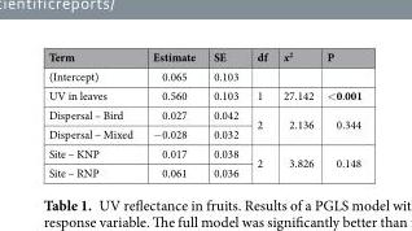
<table><thead><tr><td>Term</td><td>Estimate</td><td>SE</td><td>df</td><td>x<sup>2</sup></td><td>P</td></tr></thead><tbody><tr><td>(Intercept)</td><td>0.065</td><td>0.103</td><td></td><td></td><td></td></tr><tr><td>UV in leaves</td><td>0.560</td><td>0.103</td><td>1</td><td>27.142</td><td>&lt;0.001</td></tr><tr><td>Dispersal – Bird</td><td>0.027</td><td>0.042</td><td rowspan="2">2</td><td rowspan="2">2.136</td><td rowspan="2">0.344</td></tr><tr><td>Dispersal – Mixed</td><td>−0.028</td><td>0.032</td></tr><tr><td>Site – KNP</td><td>0.017</td><td>0.038</td><td rowspan="2">2</td><td rowspan="2">3.826</td><td rowspan="2">0.148</td></tr><tr><td>Site – RNP</td><td>0.061</td><td>0.036</td></tr></tbody></table>